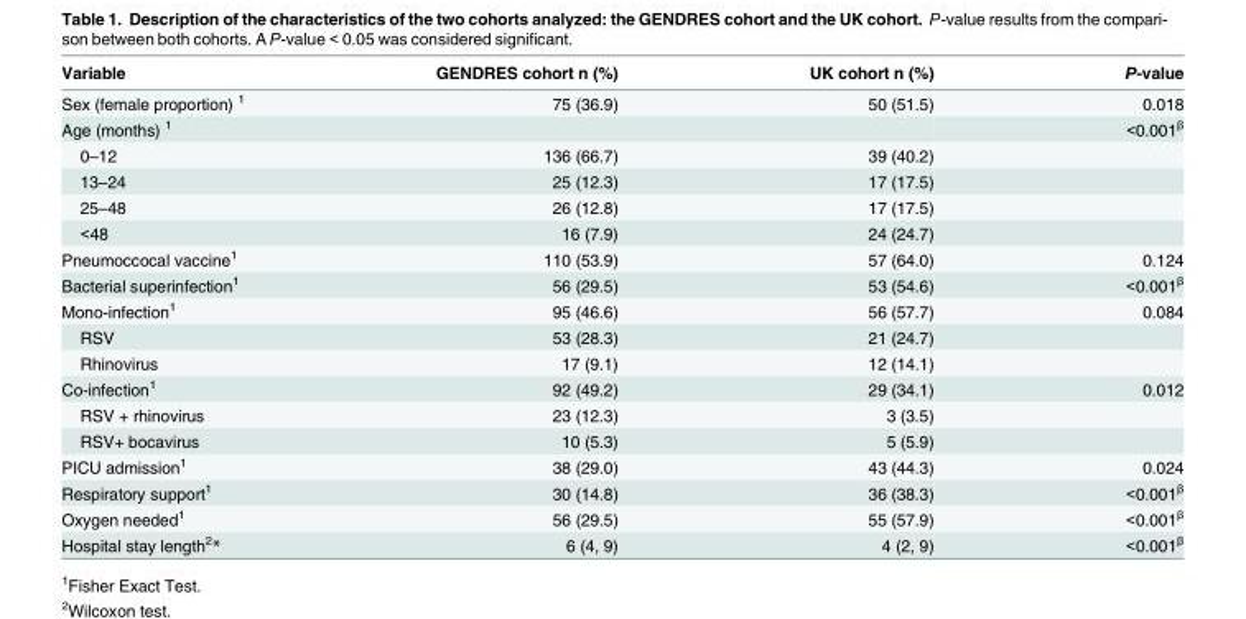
<table><thead><tr><td>Variable</td><td>GENDRES cohort n (%)</td><td>UK cohort n (%)</td><td>P-value</td></tr></thead><tbody><tr><td>Sex (female proportion) <sup>1</sup></td><td>75 (36.9)</td><td>50 (51.5)</td><td>0.018</td></tr><tr><td>Age (months) <sup>1</sup></td><td></td><td></td><td>&lt;0.001<sup>β</sup></td></tr><tr><td>0–12</td><td>136 (66.7)</td><td>39 (40.2)</td><td></td></tr><tr><td>13–24</td><td>25 (12.3)</td><td>17 (17.5)</td><td></td></tr><tr><td>25–48</td><td>26 (12.8)</td><td>17 (17.5)</td><td></td></tr><tr><td>&lt;48</td><td>16 (7.9)</td><td>24 (24.7)</td><td></td></tr><tr><td>Pneumoccocal vaccine<sup>1</sup></td><td>110 (53.9)</td><td>57 (64.0)</td><td>0.124</td></tr><tr><td>Bacterial superinfection<sup>1</sup></td><td>56 (29.5)</td><td>53 (54.6)</td><td>&lt;0.001<sup>β</sup></td></tr><tr><td>Mono-infection<sup>1</sup></td><td>95 (46.6)</td><td>56 (57.7)</td><td>0.084</td></tr><tr><td>RSV</td><td>53 (28.3)</td><td>21 (24.7)</td><td></td></tr><tr><td>Rhinovirus</td><td>17 (9.1)</td><td>12 (14.1)</td><td></td></tr><tr><td>Co-infection<sup>1</sup></td><td>92 (49.2)</td><td>29 (34.1)</td><td>0.012</td></tr><tr><td>RSV + rhinovirus</td><td>23 (12.3)</td><td>3 (3.5)</td><td></td></tr><tr><td>RSV+ bocavirus</td><td>10 (5.3)</td><td>5 (5.9)</td><td></td></tr><tr><td>PICU admission<sup>1</sup></td><td>38 (29.0)</td><td>43 (44.3)</td><td>0.024</td></tr><tr><td>Respiratory support<sup>1</sup></td><td>30 (14.8)</td><td>36 (38.3)</td><td>&lt;0.001<sup>β</sup></td></tr><tr><td>Oxygen needed<sup>1</sup></td><td>56 (29.5)</td><td>55 (57.9)</td><td>&lt;0.001<sup>β</sup></td></tr><tr><td>Hospital stay length<sup>2</sup>*</td><td>6 (4, 9)</td><td>4 (2, 9)</td><td>&lt;0.001<sup>β</sup></td></tr></tbody></table>